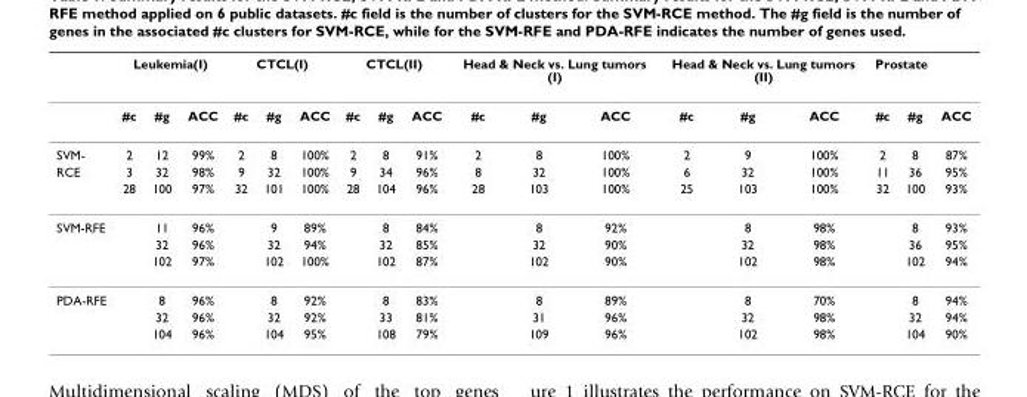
<table><thead><tr><td rowspan="2"></td><td colspan="3">Leukemia(I)</td><td colspan="3">CTCL(I)</td><td colspan="3">CTCL(II)</td><td colspan="3">Head &amp; Neck vs. Lung tumors (I)</td><td colspan="3">Head &amp; Neck vs. Lung tumors (II)</td><td colspan="3">Prostate</td></tr><tr><td>#c</td><td>#g</td><td>ACC</td><td>#c</td><td>#g</td><td>ACC</td><td>#c</td><td>#g</td><td>ACC</td><td>#c</td><td>#g</td><td>ACC</td><td>#c</td><td>#g</td><td>ACC</td><td>#c</td><td>#g</td><td>ACC</td></tr></thead><tbody><tr><td>SVM-</td><td>2</td><td>12</td><td>99%</td><td>2</td><td>8</td><td>100%</td><td>2</td><td>8</td><td>91%</td><td>2</td><td>8</td><td>100%</td><td>2</td><td>9</td><td>100%</td><td>2</td><td>8</td><td>87%</td></tr><tr><td rowspan="2">RCE</td><td>3</td><td>32</td><td>98%</td><td>9</td><td>32</td><td>100%</td><td>9</td><td>34</td><td>96%</td><td>8</td><td>32</td><td>100%</td><td>6</td><td>32</td><td>100%</td><td>11</td><td>36</td><td>95%</td></tr><tr><td>28</td><td>100</td><td>97%</td><td>32</td><td>101</td><td>100%</td><td>28</td><td>104</td><td>96%</td><td>28</td><td>103</td><td>100%</td><td>25</td><td>103</td><td>100%</td><td>32</td><td>100</td><td>93%</td></tr><tr><td rowspan="3">SVM-RFE</td><td></td><td>11</td><td>96%</td><td></td><td>9</td><td>89%</td><td></td><td>8</td><td>84%</td><td></td><td>8</td><td>92%</td><td></td><td>8</td><td>98%</td><td></td><td>8</td><td>93%</td></tr><tr><td></td><td>32</td><td>96%</td><td></td><td>32</td><td>94%</td><td></td><td>32</td><td>85%</td><td></td><td>32</td><td>90%</td><td></td><td>32</td><td>98%</td><td></td><td>36</td><td>95%</td></tr><tr><td></td><td>102</td><td>97%</td><td></td><td>102</td><td>100%</td><td></td><td>102</td><td>87%</td><td></td><td>102</td><td>90%</td><td></td><td>102</td><td>98%</td><td></td><td>102</td><td>94%</td></tr><tr><td rowspan="3">PDA-RFE</td><td></td><td>8</td><td>96%</td><td></td><td>8</td><td>92%</td><td></td><td>8</td><td>83%</td><td></td><td>8</td><td>89%</td><td></td><td>8</td><td>70%</td><td></td><td>8</td><td>94%</td></tr><tr><td></td><td>32</td><td>96%</td><td></td><td>32</td><td>92%</td><td></td><td>33</td><td>81%</td><td></td><td>31</td><td>96%</td><td></td><td>32</td><td>98%</td><td></td><td>32</td><td>94%</td></tr><tr><td></td><td>104</td><td>96%</td><td></td><td>104</td><td>95%</td><td></td><td>108</td><td>79%</td><td></td><td>109</td><td>96%</td><td></td><td>102</td><td>98%</td><td></td><td>104</td><td>90%</td></tr></tbody></table>